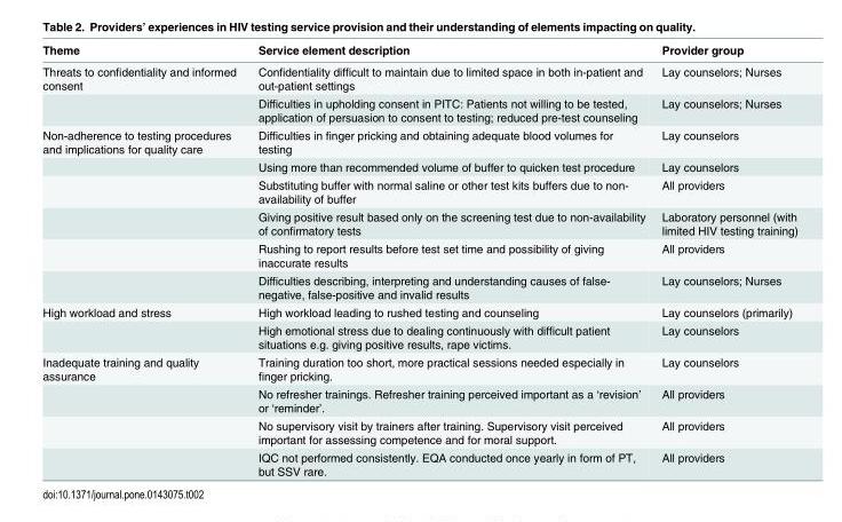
<table><thead><tr><td>Theme</td><td>Service element description</td><td>Provider group</td></tr></thead><tbody><tr><td rowspan="2">Threats to confidentiality and informed consent</td><td>Confidentiality difficult to maintain due to limited space in both in-patient and out-patient settings</td><td>Lay counselors; Nurses</td></tr><tr><td>Difficulties in upholding consent in PITC: Patients not willing to be tested, application of persuasion to consent to testing; reduced pre-test counseling</td><td>Lay counselors; Nurses</td></tr><tr><td rowspan="6">Non-adherence to testing procedures and implications for quality care</td><td>Difficulties in finger pricking and obtaining adequate blood volumes for testing</td><td>Lay counselors</td></tr><tr><td>Using more than recommended volume of buffer to quicken test procedure</td><td>Lay counselors</td></tr><tr><td>Substituting buffer with normal saline or other test kits buffers due to non- availability of buffer</td><td>All providers</td></tr><tr><td>Giving positive result based only on the screening test due to non-availability of confirmatory tests</td><td>Laboratory personnel (with limited HIV testing training)</td></tr><tr><td>Rushing to report results before test set time and possibility of giving inaccurate results</td><td>All providers</td></tr><tr><td>Difficulties describing, interpreting and understanding causes of false- negative, false-positive and invalid results</td><td>Lay counselors; Nurses</td></tr><tr><td rowspan="2">High workload and stress</td><td>High workload leading to rushed testing and counseling</td><td>Lay counselors (primarily)</td></tr><tr><td>High emotional stress due to dealing continuously with difficult patient situations e.g. giving positive results, rape victims.</td><td>Lay counselors</td></tr><tr><td rowspan="4">Inadequate training and quality assurance</td><td>Training duration too short, more practical sessions needed especially in finger pricking.</td><td>Lay counselors</td></tr><tr><td>No refresher trainings. Refresher training perceived important as a ‘revision’ or ‘reminder’.</td><td>All providers</td></tr><tr><td>No supervisory visit by trainers after training. Supervisory visit perceived important for assessing competence and for moral support.</td><td>All providers</td></tr><tr><td>IQC not performed consistently. EQA conducted once yearly in form of PT, but SSV rare.</td><td>All providers</td></tr></tbody></table>